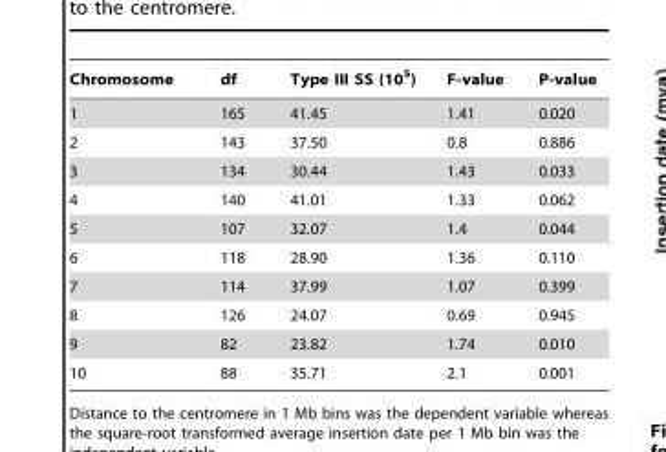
<table><thead><tr><td>Chromosome</td><td>df</td><td>Type III SS (10<sup>5</sup>)</td><td>F-value</td><td>P-value</td></tr></thead><tbody><tr><td>1</td><td>165</td><td>41.45</td><td>1.41</td><td>0.020</td></tr><tr><td>2</td><td>143</td><td>37.50</td><td>0.8</td><td>0.886</td></tr><tr><td>3</td><td>134</td><td>30.44</td><td>1.43</td><td>0.033</td></tr><tr><td>4</td><td>140</td><td>41.01</td><td>1.33</td><td>0.062</td></tr><tr><td>5</td><td>107</td><td>32.07</td><td>1.4</td><td>0.044</td></tr><tr><td>6</td><td>118</td><td>28.90</td><td>1.36</td><td>0.110</td></tr><tr><td>7</td><td>114</td><td>37.99</td><td>1.07</td><td>0.399</td></tr><tr><td>8</td><td>126</td><td>24.07</td><td>0.69</td><td>0.945</td></tr><tr><td>9</td><td>82</td><td>23.82</td><td>1.74</td><td>0.010</td></tr><tr><td>10</td><td>88</td><td>35.71</td><td>2.1</td><td>0.001</td></tr></tbody></table>